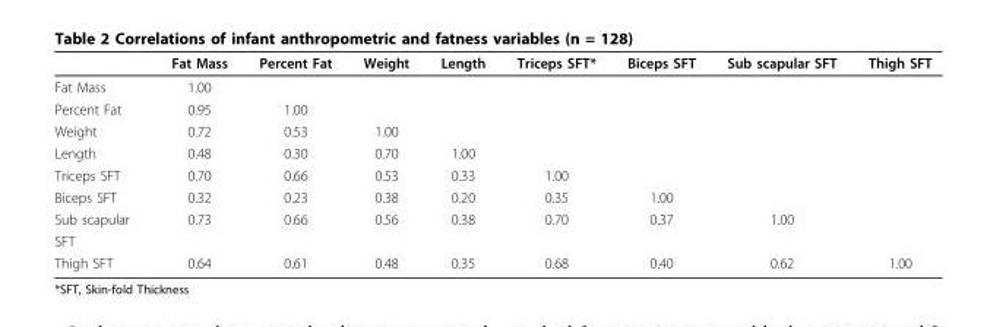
<table><thead><tr><td></td><td>Fat Mass</td><td>Percent Fat</td><td>Weight</td><td>Length</td><td>Triceps SFT*</td><td>Biceps SFT</td><td>Sub scapular SFT</td><td>Thigh SFT</td></tr></thead><tbody><tr><td>Fat Mass</td><td>1.00</td><td></td><td></td><td></td><td></td><td></td><td></td><td></td></tr><tr><td>Percent Fat</td><td>0.95</td><td>1.00</td><td></td><td></td><td></td><td></td><td></td><td></td></tr><tr><td>Weight</td><td>0.72</td><td>0.53</td><td>1.00</td><td></td><td></td><td></td><td></td><td></td></tr><tr><td>Length</td><td>0.48</td><td>0.30</td><td>0.70</td><td>1.00</td><td></td><td></td><td></td><td></td></tr><tr><td>Triceps SFT</td><td>0.70</td><td>0.66</td><td>0.53</td><td>0.33</td><td>1.00</td><td></td><td></td><td></td></tr><tr><td>Biceps SFT</td><td>0.32</td><td>0.23</td><td>0.38</td><td>0.20</td><td>0.35</td><td>1.00</td><td></td><td></td></tr><tr><td>Sub scapular</td><td>0.73</td><td>0.66</td><td>0.56</td><td>0.38</td><td>0.70</td><td>0.37</td><td>1.00</td><td></td></tr><tr><td colspan="9">SFT</td></tr><tr><td>Thigh SFT</td><td>0.64</td><td>0.61</td><td>0.48</td><td>0.35</td><td>0.68</td><td>0.40</td><td>0.62</td><td>1.00</td></tr></tbody></table>